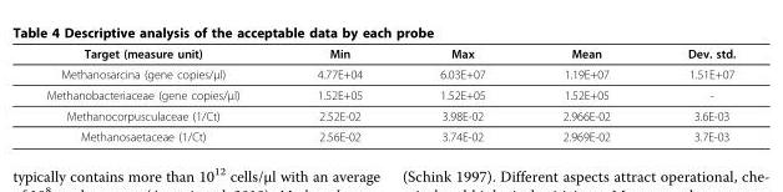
<table><thead><tr><td>Target (measure unit)</td><td>Min</td><td>Max</td><td>Mean</td><td>Dev. std.</td></tr></thead><tbody><tr><td>Methanosarcina (gene copies/μl)</td><td>4.77E+04</td><td>6.03E+07</td><td>1.19E+07</td><td>1.51E+07</td></tr><tr><td>Methanobacteriaceae (gene copies/μl)</td><td>1.52E+05</td><td>1.52E+05</td><td>1.52E+05</td><td>-</td></tr><tr><td>Methanocorpusculaceae (1/Ct)</td><td>2.52E-02</td><td>3.98E-02</td><td>2.966E-02</td><td>3.6E-03</td></tr><tr><td>Methanosaetaceae (1/Ct)</td><td>2.56E-02</td><td>3.74E-02</td><td>2.969E-02</td><td>3.7E-03</td></tr></tbody></table>